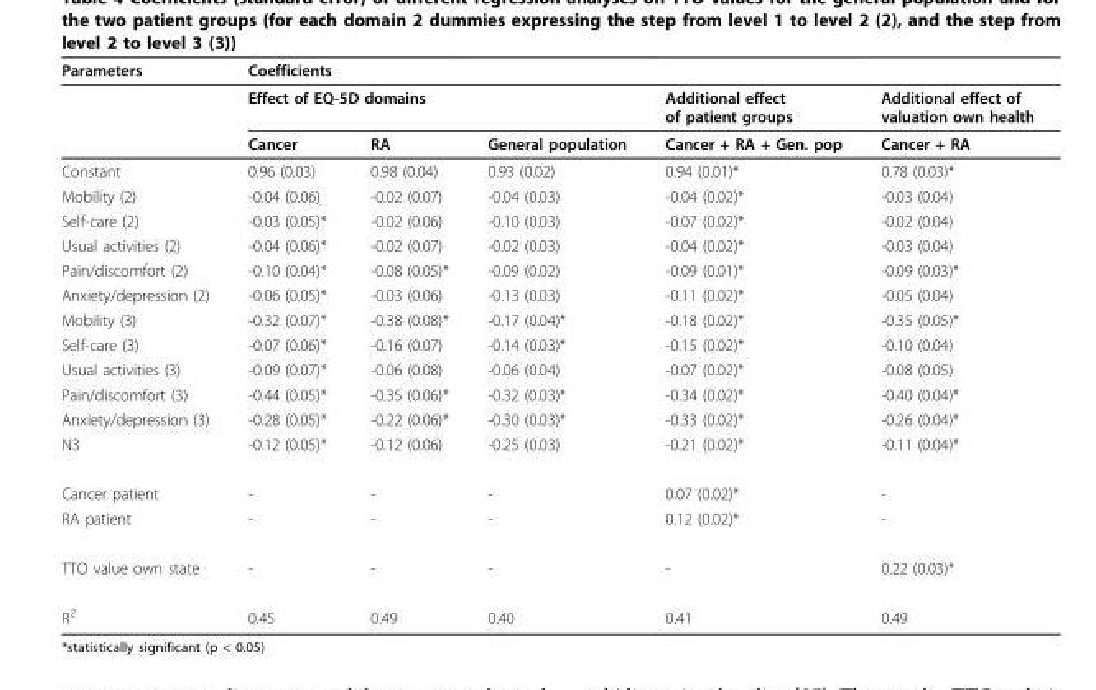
<table><thead><tr><td>Parameters</td><td>Coefficients</td><td></td><td></td><td></td><td></td></tr></thead><tbody><tr><td></td><td colspan="3">Effect of EQ-5D domains</td><td>Additional effect of patient groups</td><td>Additional effect of valuation own health</td></tr><tr><td></td><td>Cancer</td><td>RA</td><td>General population</td><td>Cancer + RA + Gen. pop</td><td>Cancer + RA</td></tr><tr><td>Constant</td><td>0.96 (0.03)</td><td>0.98 (0.04)</td><td>0.93 (0.02)</td><td>0.94 (0.01)*</td><td>0.78 (0.03)*</td></tr><tr><td>Mobility (2)</td><td>-0.04 (0.06)</td><td>-0.02 (0.07)</td><td>-0.04 (0.03)</td><td>-0.04 (0.02)*</td><td>-0.03 (0.04)</td></tr><tr><td>Self-care (2)</td><td>-0.03 (0.05)*</td><td>-0.02 (0.06)</td><td>-0.10 (0.03)</td><td>-0.07 (0.02)*</td><td>-0.02 (0.04)</td></tr><tr><td>Usual activities (2)</td><td>-0.04 (0.06)*</td><td>-0.02 (0.07)</td><td>-0.02 (0.03)</td><td>-0.04 (0.02)*</td><td>-0.03 (0.04)</td></tr><tr><td>Pain/discomfort (2)</td><td>-0.10 (0.04)*</td><td>-0.08 (0.05)*</td><td>-0.09 (0.02)</td><td>-0.09 (0.01)*</td><td>-0.09 (0.03)*</td></tr><tr><td>Anxiety/depression (2)</td><td>-0.06 (0.05)*</td><td>-0.03 (0.06)</td><td>-0.13 (0.03)</td><td>-0.11 (0.02)*</td><td>-0.05 (0.04)</td></tr><tr><td>Mobility (3)</td><td>-0.32 (0.07)*</td><td>-0.38 (0.08)*</td><td>-0.17 (0.04)*</td><td>-0.18 (0.02)*</td><td>-0.35 (0.05)*</td></tr><tr><td>Self-care (3)</td><td>-0.07 (0.06)*</td><td>-0.16 (0.07)</td><td>-0.14 (0.03)*</td><td>-0.15 (0.02)*</td><td>-0.10 (0.04)</td></tr><tr><td>Usual activities (3)</td><td>-0.09 (0.07)*</td><td>-0.06 (0.08)</td><td>-0.06 (0.04)</td><td>-0.07 (0.02)*</td><td>-0.08 (0.05)</td></tr><tr><td>Pain/discomfort (3)</td><td>-0.44 (0.05)*</td><td>-0.35 (0.06)*</td><td>-0.32 (0.03)*</td><td>-0.34 (0.02)*</td><td>-0.40 (0.04)*</td></tr><tr><td>Anxiety/depression (3)</td><td>-0.28 (0.05)*</td><td>-0.22 (0.06)*</td><td>-0.30 (0.03)*</td><td>-0.33 (0.02)*</td><td>-0.26 (0.04)*</td></tr><tr><td>N3</td><td>-0.12 (0.05)*</td><td>-0.12 (0.06)</td><td>-0.25 (0.03)</td><td>-0.21 (0.02)*</td><td>-0.11 (0.04)*</td></tr><tr><td>Cancer patient</td><td>-</td><td>-</td><td>-</td><td>0.07 (0.02)*</td><td>-</td></tr><tr><td>RA patient</td><td>-</td><td>-</td><td>-</td><td>0.12 (0.02)*</td><td>-</td></tr><tr><td>TTO value own state</td><td>-</td><td>-</td><td>-</td><td>-</td><td>0.22 (0.03)*</td></tr><tr><td>R<sup>2</sup></td><td>0.45</td><td>0.49</td><td>0.40</td><td>0.41</td><td>0.49</td></tr></tbody></table>